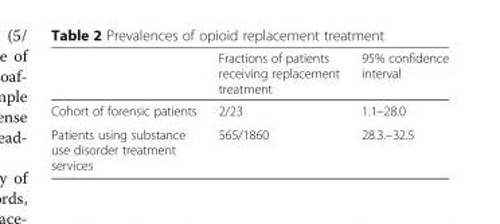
<table><thead><tr><td></td><td>Fractions of patients receiving replacement treatment</td><td>95% confidence interval</td></tr></thead><tbody><tr><td>Cohort of forensic patients</td><td>2/23</td><td>1.1–28.0</td></tr><tr><td>Patients using substance use disorder treatment services</td><td>565/1860</td><td>28.3.–32.5</td></tr></tbody></table>